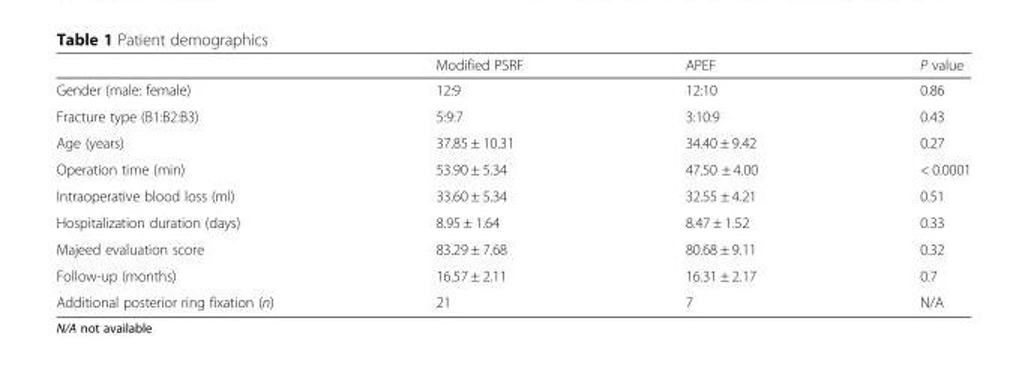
<table><thead><tr><td></td><td>Modified PSRF</td><td>APEF</td><td>P value</td></tr></thead><tbody><tr><td>Gender (male: female)</td><td>12:9</td><td>12:10</td><td>0.86</td></tr><tr><td>Fracture type (B1:B2:B3)</td><td>5:9:7</td><td>3:10:9</td><td>0.43</td></tr><tr><td>Age (years)</td><td>37.85 ± 10.31</td><td>34.40 ± 9.42</td><td>0.27</td></tr><tr><td>Operation time (min)</td><td>53.90 ± 5.34</td><td>47.50 ± 4.00</td><td>&lt; 0.0001</td></tr><tr><td>Intraoperative blood loss (ml)</td><td>33.60 ± 5.34</td><td>32.55 ± 4.21</td><td>0.51</td></tr><tr><td>Hospitalization duration (days)</td><td>8.95 ± 1.64</td><td>8.47 ± 1.52</td><td>0.33</td></tr><tr><td>Majeed evaluation score</td><td>83.29 ± 7.68</td><td>80.68 ± 9.11</td><td>0.32</td></tr><tr><td>Follow-up (months)</td><td>16.57 ± 2.11</td><td>16.31 ± 2.17</td><td>0.7</td></tr><tr><td>Additional posterior ring fixation (n)</td><td>21</td><td>7</td><td>N/A</td></tr></tbody></table>